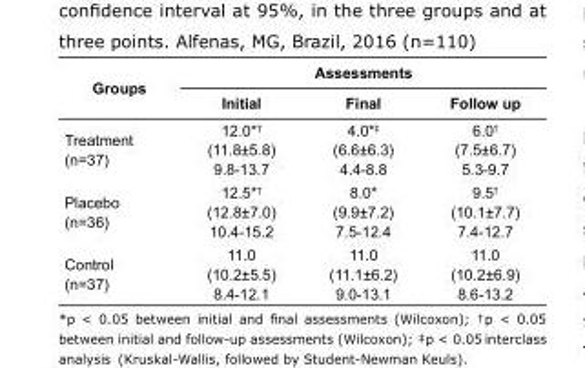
<table><tbody><tr><td rowspan="2">Groups</td><td colspan="3">Assessments</td></tr><tr><td>Initial</td><td>Final</td><td>Follow up</td></tr><tr><td>Treatment (n=37)</td><td>12.0*<sup>†</sup> (11.8±5.8) 9.8-13.7</td><td>4.0*<sup>‡</sup> (6.6±6.3) 4.4-8.8</td><td>6.0<sup>†</sup> (7.5±6.7) 5.3-9.7</td></tr><tr><td>Placebo (n=36)</td><td>12.5*<sup>†</sup> (12.8±7.0) 10.4-15.2</td><td>8.0* (9.9±7.2) 7.5-12.4</td><td>9.5<sup>†</sup> (10.1±7.7) 7.4-12.7</td></tr><tr><td>Control (n=37)</td><td>11.0 (10.2±5.5) 8.4-12.1</td><td>11.0 (11.1±6.2) 9.0-13.1</td><td>11.0 (10.2±6.9) 8.6-13.2</td></tr></tbody></table>